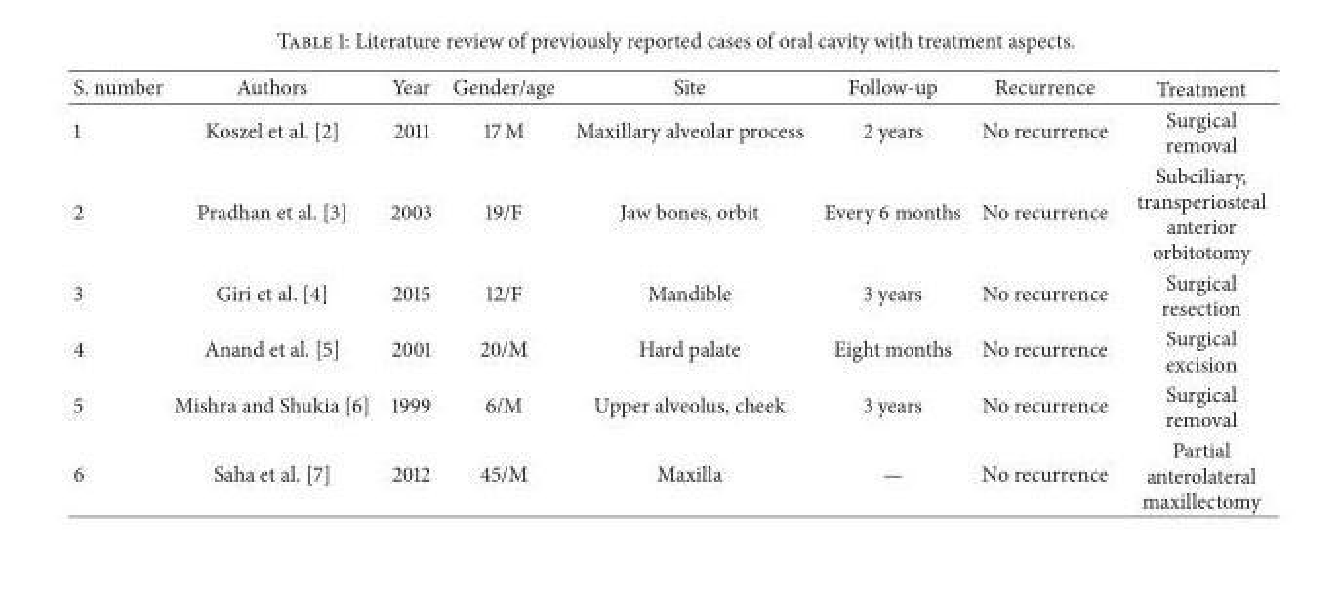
<table><thead><tr><td>S. number</td><td>Authors</td><td>Year</td><td>Gender/age</td><td>Site</td><td>Follow-up</td><td>Recurrence</td><td>Treatment</td></tr></thead><tbody><tr><td>1</td><td>Koszel et al. [2]</td><td>2011</td><td>17 M</td><td>Maxillary alveolar process</td><td>2 years</td><td>No recurrence</td><td>Surgical removal</td></tr><tr><td>2</td><td>Pradhan et al. [3]</td><td>2003</td><td>19/F</td><td>Jaw bones, orbit</td><td>Every 6 months</td><td>No recurrence</td><td>Subciliary, transperiosteal anterior orbitotomy</td></tr><tr><td>3</td><td>Giri et al. [4]</td><td>2015</td><td>12/F</td><td>Mandible</td><td>3 years</td><td>No recurrence</td><td>Surgical resection</td></tr><tr><td>4</td><td>Anand et al. [5]</td><td>2001</td><td>20/M</td><td>Hard palate</td><td>Eight months</td><td>No recurrence</td><td>Surgical excision</td></tr><tr><td>5</td><td>Mishra and Shukia [6]</td><td>1999</td><td>6/M</td><td>Upper alveolus, cheek</td><td>3 years</td><td>No recurrence</td><td>Surgical removal</td></tr><tr><td>6</td><td>Saha et al. [7]</td><td>2012</td><td>45/M</td><td>Maxilla</td><td>—</td><td>No recurrence</td><td>Partial anterolateral maxillectomy</td></tr></tbody></table>